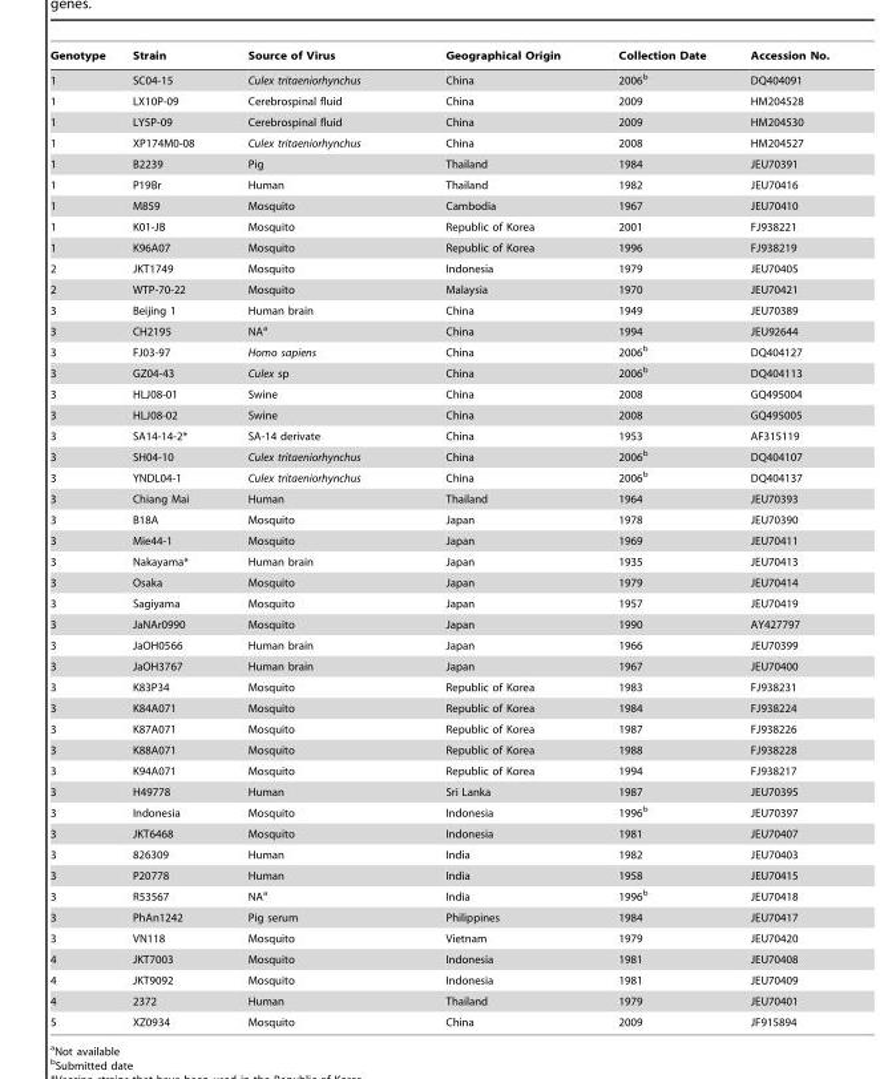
<table><thead><tr><td>Genotype</td><td>Strain</td><td>Source of Virus</td><td>Geographical Origin</td><td>Collection Date</td><td>Accession No.</td></tr></thead><tbody><tr><td>1</td><td>SC04-15</td><td>Culex tritaeniorhynchus</td><td>China</td><td>2006<sup>b</sup></td><td>DQ404091</td></tr><tr><td>1</td><td>LX10P-09</td><td>Cerebrospinal fluid</td><td>China</td><td>2009</td><td>HM204528</td></tr><tr><td>1</td><td>LY5P-09</td><td>Cerebrospinal fluid</td><td>China</td><td>2009</td><td>HM204530</td></tr><tr><td>1</td><td>XP174M0-08</td><td>Culex tritaeniorhynchus</td><td>China</td><td>2008</td><td>HM204527</td></tr><tr><td>1</td><td>B2239</td><td>Pig</td><td>Thailand</td><td>1984</td><td>JEU70391</td></tr><tr><td>1</td><td>P19Br</td><td>Human</td><td>Thailand</td><td>1982</td><td>JEU70416</td></tr><tr><td>1</td><td>M859</td><td>Mosquito</td><td>Cambodia</td><td>1967</td><td>JEU70410</td></tr><tr><td>1</td><td>K01-JB</td><td>Mosquito</td><td>Republic of Korea</td><td>2001</td><td>FJ938221</td></tr><tr><td>1</td><td>K96A07</td><td>Mosquito</td><td>Republic of Korea</td><td>1996</td><td>FJ938219</td></tr><tr><td>2</td><td>JKT1749</td><td>Mosquito</td><td>Indonesia</td><td>1979</td><td>JEU70405</td></tr><tr><td>2</td><td>WTP-70-22</td><td>Mosquito</td><td>Malaysia</td><td>1970</td><td>JEU70421</td></tr><tr><td>3</td><td>Beijing 1</td><td>Human brain</td><td>China</td><td>1949</td><td>JEU70389</td></tr><tr><td>3</td><td>CH2195</td><td>NA<sup>a</sup></td><td>China</td><td>1994</td><td>JEU92644</td></tr><tr><td>3</td><td>FJ03-97</td><td>Homo sapiens</td><td>China</td><td>2006<sup>b</sup></td><td>DQ404127</td></tr><tr><td>3</td><td>GZ04-43</td><td>Culex sp</td><td>China</td><td>2006<sup>b</sup></td><td>DQ404113</td></tr><tr><td>3</td><td>HLJ08-01</td><td>Swine</td><td>China</td><td>2008</td><td>GQ495004</td></tr><tr><td>3</td><td>HLJ08-02</td><td>Swine</td><td>China</td><td>2008</td><td>GQ495005</td></tr><tr><td>3</td><td>SA14-14-2*</td><td>SA-14 derivate</td><td>China</td><td>1953</td><td>AF315119</td></tr><tr><td>3</td><td>SH04-10</td><td>Culex tritaeniorhynchus</td><td>China</td><td>2006<sup>b</sup></td><td>DQ404107</td></tr><tr><td>3</td><td>YNDL04-1</td><td>Culex tritaeniorhynchus</td><td>China</td><td>2006<sup>b</sup></td><td>DQ404137</td></tr><tr><td>3</td><td>Chiang Mai</td><td>Human</td><td>Thailand</td><td>1964</td><td>JEU70393</td></tr><tr><td>3</td><td>B18A</td><td>Mosquito</td><td>Japan</td><td>1978</td><td>JEU70390</td></tr><tr><td>3</td><td>Mie44-1</td><td>Mosquito</td><td>Japan</td><td>1969</td><td>JEU70411</td></tr><tr><td>3</td><td>Nakayama*</td><td>Human brain</td><td>Japan</td><td>1935</td><td>JEU70413</td></tr><tr><td>3</td><td>Osaka</td><td>Mosquito</td><td>Japan</td><td>1979</td><td>JEU70414</td></tr><tr><td>3</td><td>Sagiyama</td><td>Mosquito</td><td>Japan</td><td>1957</td><td>JEU70419</td></tr><tr><td>3</td><td>JaNAr0990</td><td>Mosquito</td><td>Japan</td><td>1990</td><td>AY427797</td></tr><tr><td>3</td><td>JaOH0566</td><td>Human brain</td><td>Japan</td><td>1966</td><td>JEU70399</td></tr><tr><td>3</td><td>JaOH3767</td><td>Human brain</td><td>Japan</td><td>1967</td><td>JEU70400</td></tr><tr><td>3</td><td>K83P34</td><td>Mosquito</td><td>Republic of Korea</td><td>1983</td><td>FJ938231</td></tr><tr><td>3</td><td>K84A071</td><td>Mosquito</td><td>Republic of Korea</td><td>1984</td><td>FJ938224</td></tr><tr><td>3</td><td>K87A071</td><td>Mosquito</td><td>Republic of Korea</td><td>1987</td><td>FJ938226</td></tr><tr><td>3</td><td>K88A071</td><td>Mosquito</td><td>Republic of Korea</td><td>1988</td><td>FJ938228</td></tr><tr><td>3</td><td>K94A071</td><td>Mosquito</td><td>Republic of Korea</td><td>1994</td><td>FJ938217</td></tr><tr><td>3</td><td>H49778</td><td>Human</td><td>Sri Lanka</td><td>1987</td><td>JEU70395</td></tr><tr><td>3</td><td>Indonesia</td><td>Mosquito</td><td>Indonesia</td><td>1996<sup>b</sup></td><td>JEU70397</td></tr><tr><td>3</td><td>JKT6468</td><td>Mosquito</td><td>Indonesia</td><td>1981</td><td>JEU70407</td></tr><tr><td>3</td><td>826309</td><td>Human</td><td>India</td><td>1982</td><td>JEU70403</td></tr><tr><td>3</td><td>P20778</td><td>Human</td><td>India</td><td>1958</td><td>JEU70415</td></tr><tr><td>3</td><td>R53567</td><td>NA<sup>a</sup></td><td>India</td><td>1996<sup>b</sup></td><td>JEU70418</td></tr><tr><td>3</td><td>PhAn1242</td><td>Pig serum</td><td>Philippines</td><td>1984</td><td>JEU70417</td></tr><tr><td>3</td><td>VN118</td><td>Mosquito</td><td>Vietnam</td><td>1979</td><td>JEU70420</td></tr><tr><td>4</td><td>JKT7003</td><td>Mosquito</td><td>Indonesia</td><td>1981</td><td>JEU70408</td></tr><tr><td>4</td><td>JKT9092</td><td>Mosquito</td><td>Indonesia</td><td>1981</td><td>JEU70409</td></tr><tr><td>4</td><td>2372</td><td>Human</td><td>Thailand</td><td>1979</td><td>JEU70401</td></tr><tr><td>5</td><td>XZ0934</td><td>Mosquito</td><td>China</td><td>2009</td><td>JF915894</td></tr></tbody></table>